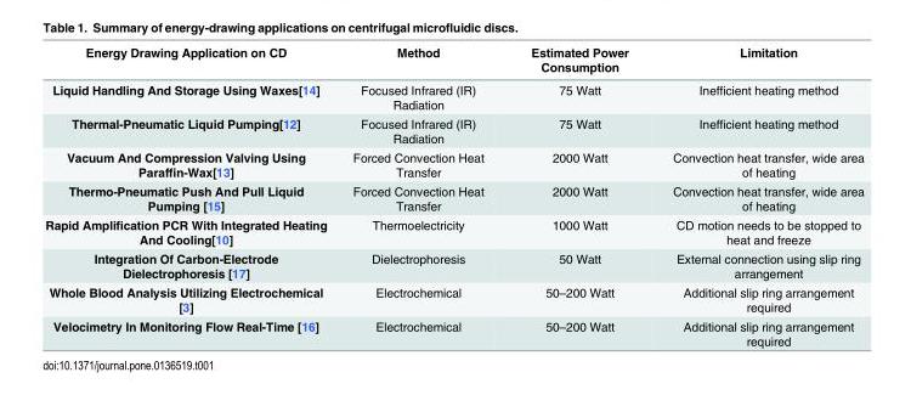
<table><thead><tr><td>Energy Drawing Application on CD</td><td>Method</td><td>Estimated Power Consumption</td><td>Limitation</td></tr></thead><tbody><tr><td>Liquid Handling And Storage Using Waxes[14]</td><td>Focused Infrared (IR) Radiation</td><td>75 Watt</td><td>Inefficient heating method</td></tr><tr><td>Thermal-Pneumatic Liquid Pumping[12]</td><td>Focused Infrared (IR) Radiation</td><td>75 Watt</td><td>Inefficient heating method</td></tr><tr><td>Vacuum And Compression Valving Using Paraffin-Wax[13]</td><td>Forced Convection Heat Transfer</td><td>2000 Watt</td><td>Convection heat transfer, wide area of heating</td></tr><tr><td>Thermo-Pneumatic Push And Pull Liquid Pumping [15]</td><td>Forced Convection Heat Transfer</td><td>2000 Watt</td><td>Convection heat transfer, wide area of heating</td></tr><tr><td>Rapid Amplification PCR With Integrated Heating And Cooling[10]</td><td>Thermoelectricity</td><td>1000 Watt</td><td>CD motion needs to be stopped to heat and freeze</td></tr><tr><td>Integration Of Carbon-Electrode Dielectrophoresis [17]</td><td>Dielectrophoresis</td><td>50 Watt</td><td>External connection using slip ring arrangement</td></tr><tr><td>Whole Blood Analysis Utilizing Electrochemical [3]</td><td>Electrochemical</td><td>50–200 Watt</td><td>Additional slip ring arrangement required</td></tr><tr><td>Velocimetry In Monitoring Flow Real-Time [16]</td><td>Electrochemical</td><td>50–200 Watt</td><td>Additional slip ring arrangement required</td></tr></tbody></table>